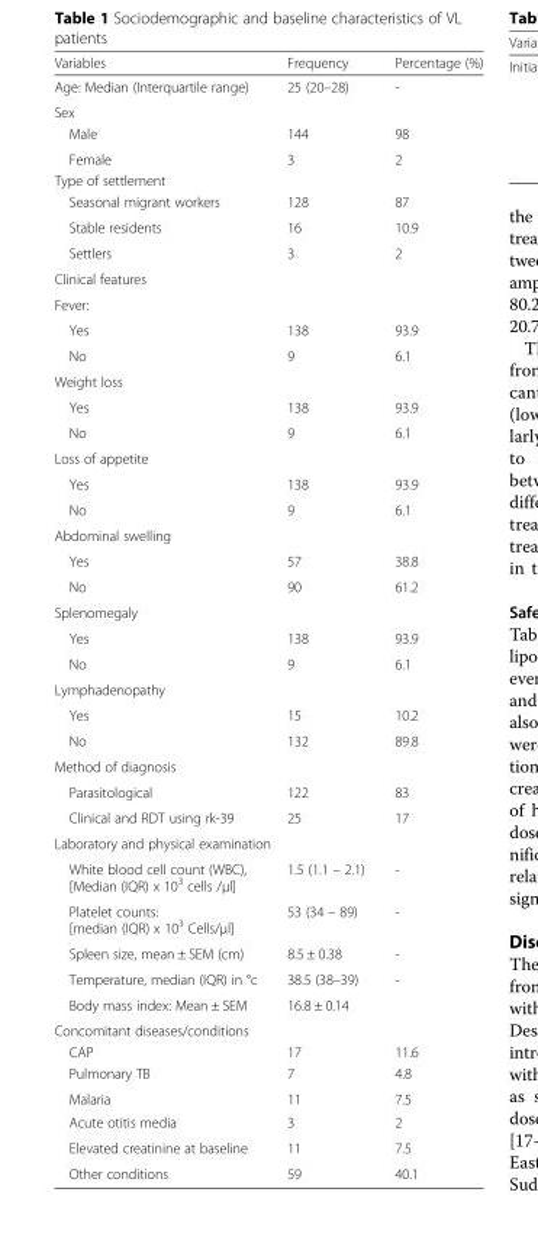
<table><thead><tr><td>Variables</td><td>Frequency</td><td>Percentage (%)</td></tr></thead><tbody><tr><td>Age: Median (Interquartile range)</td><td>25 (20–28)</td><td>-</td></tr><tr><td colspan="3">Sex</td></tr><tr><td>Male</td><td>144</td><td>98</td></tr><tr><td>Female</td><td>3</td><td>2</td></tr><tr><td colspan="3">Type of settlement</td></tr><tr><td>Seasonal migrant workers</td><td>128</td><td>87</td></tr><tr><td>Stable residents</td><td>16</td><td>10.9</td></tr><tr><td>Settlers</td><td>3</td><td>2</td></tr><tr><td colspan="3">Clinical features</td></tr><tr><td colspan="3">Fever:</td></tr><tr><td>Yes</td><td>138</td><td>93.9</td></tr><tr><td>No</td><td>9</td><td>6.1</td></tr><tr><td colspan="3">Weight loss</td></tr><tr><td>Yes</td><td>138</td><td>93.9</td></tr><tr><td>No</td><td>9</td><td>6.1</td></tr><tr><td colspan="3">Loss of appetite</td></tr><tr><td>Yes</td><td>138</td><td>93.9</td></tr><tr><td>No</td><td>9</td><td>6.1</td></tr><tr><td colspan="3">Abdominal swelling</td></tr><tr><td>Yes</td><td>57</td><td>38.8</td></tr><tr><td>No</td><td>90</td><td>61.2</td></tr><tr><td colspan="3">Splenomegaly</td></tr><tr><td>Yes</td><td>138</td><td>93.9</td></tr><tr><td>No</td><td>9</td><td>6.1</td></tr><tr><td colspan="3">Lymphadenopathy</td></tr><tr><td>Yes</td><td>15</td><td>10.2</td></tr><tr><td>No</td><td>132</td><td>89.8</td></tr><tr><td colspan="3">Method of diagnosis</td></tr><tr><td>Parasitological</td><td>122</td><td>83</td></tr><tr><td>Clinical and RDT using rk-39</td><td>25</td><td>17</td></tr><tr><td colspan="3">Laboratory and physical examination</td></tr><tr><td>White blood cell count (WBC), [Median (IQR) x 10<sup>3</sup> cells /μl]</td><td>1.5 (1.1 – 2.1)</td><td>-</td></tr><tr><td>Platelet counts: [median (IQR) x 10<sup>3</sup> Cells/μl]</td><td>53 (34 – 89)</td><td>-</td></tr><tr><td>Spleen size, mean ± SEM (cm)</td><td>8.5 ± 0.38</td><td>-</td></tr><tr><td>Temperature, median (IQR) in °c</td><td>38.5 (38–39)</td><td>-</td></tr><tr><td>Body mass index: Mean ± SEM</td><td>16.8 ± 0.14</td><td></td></tr><tr><td colspan="3">Concomitant diseases/conditions</td></tr><tr><td>CAP</td><td>17</td><td>11.6</td></tr><tr><td>Pulmonary TB</td><td>7</td><td>4.8</td></tr><tr><td>Malaria</td><td>11</td><td>7.5</td></tr><tr><td>Acute otitis media</td><td>3</td><td>2</td></tr><tr><td>Elevated creatinine at baseline</td><td>11</td><td>7.5</td></tr><tr><td>Other conditions</td><td>59</td><td>40.1</td></tr></tbody></table>